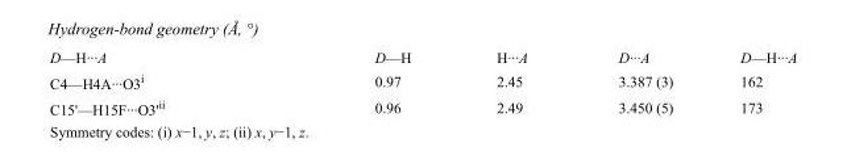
<table><tbody><tr><td>D—H···A</td><td>D—H</td><td>H···A</td><td>D···A</td><td>D—H···A</td></tr><tr><td>C4—H4A···O3<sup>i</sup></td><td>0.97</td><td>2.45</td><td>3.387 (3)</td><td>162</td></tr><tr><td>C15&#x27;—H15F···O3&#x27;<sup>ii</sup></td><td>0.96</td><td>2.49</td><td>3.450 (5)</td><td>173</td></tr></tbody></table>